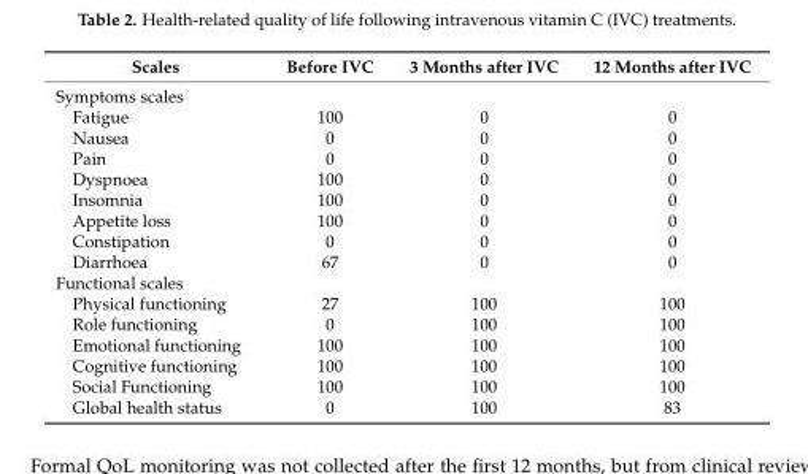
<table><thead><tr><td>Scales</td><td>Before IVC</td><td>3 Months after IVC</td><td>12 Months after IVC</td></tr></thead><tbody><tr><td colspan="4">Symptoms scales</td></tr><tr><td>Fatigue</td><td>100</td><td>0</td><td>0</td></tr><tr><td>Nausea</td><td>0</td><td>0</td><td>0</td></tr><tr><td>Pain</td><td>0</td><td>0</td><td>0</td></tr><tr><td>Dyspnoea</td><td>100</td><td>0</td><td>0</td></tr><tr><td>Insomnia</td><td>100</td><td>0</td><td>0</td></tr><tr><td>Appetite loss</td><td>100</td><td>0</td><td>0</td></tr><tr><td>Constipation</td><td>0</td><td>0</td><td>0</td></tr><tr><td>Diarrhoea</td><td>67</td><td>0</td><td>0</td></tr><tr><td colspan="4">Functional scales</td></tr><tr><td>Physical functioning</td><td>27</td><td>100</td><td>100</td></tr><tr><td>Role functioning</td><td>0</td><td>100</td><td>100</td></tr><tr><td>Emotional functioning</td><td>100</td><td>100</td><td>100</td></tr><tr><td>Cognitive functioning</td><td>100</td><td>100</td><td>100</td></tr><tr><td>Social Functioning</td><td>100</td><td>100</td><td>100</td></tr><tr><td>Global health status</td><td>0</td><td>100</td><td>83</td></tr></tbody></table>